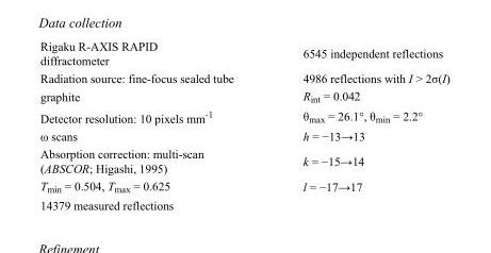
<table><tbody><tr><td>Rigaku R-AXIS RAPID diffractometer</td><td>6545 independent reflections</td></tr><tr><td>Radiation source: fine-focus sealed tube</td><td>4986 reflections with I &gt; 2σ(I)</td></tr><tr><td>graphite</td><td>R<sub>int</sub> = 0.042</td></tr><tr><td>Detector resolution: 10 pixels mm<sup>-1</sup></td><td>θ<sub>max</sub> = 26.1°, θ<sub>min</sub> = 2.2°</td></tr><tr><td>ω scans</td><td>h = −13→13</td></tr><tr><td>Absorption correction: multi-scan (ABSCOR; Higashi, 1995)</td><td>k = −15→14</td></tr><tr><td>T<sub>min</sub> = 0.504, T<sub>max</sub> = 0.625</td><td>l = −17→17</td></tr><tr><td>14379 measured reflections</td><td></td></tr></tbody></table>